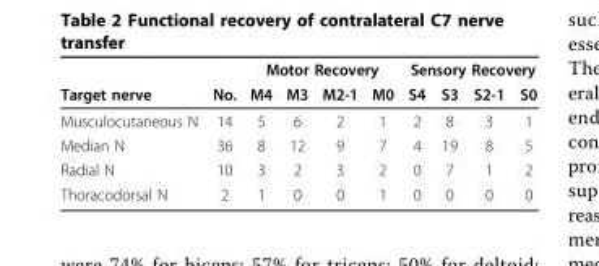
<table><thead><tr><td rowspan="2">Target nerve</td><td rowspan="2">No.</td><td colspan="4">Motor Recovery</td><td colspan="4">Sensory Recovery</td></tr><tr><td>M4</td><td>M3</td><td>M2-1</td><td>M0</td><td>S4</td><td>S3</td><td>S2-1</td><td>S0</td></tr></thead><tbody><tr><td>Musculocutaneous N</td><td>14</td><td>5</td><td>6</td><td>2</td><td>1</td><td>2</td><td>8</td><td>3</td><td>1</td></tr><tr><td>Median N</td><td>36</td><td>8</td><td>12</td><td>9</td><td>7</td><td>4</td><td>19</td><td>8</td><td>5</td></tr><tr><td>Radial N</td><td>10</td><td>3</td><td>2</td><td>3</td><td>2</td><td>0</td><td>7</td><td>1</td><td>2</td></tr><tr><td>Thoracodorsal N</td><td>2</td><td>1</td><td>0</td><td>0</td><td>1</td><td>0</td><td>0</td><td>0</td><td>0</td></tr></tbody></table>